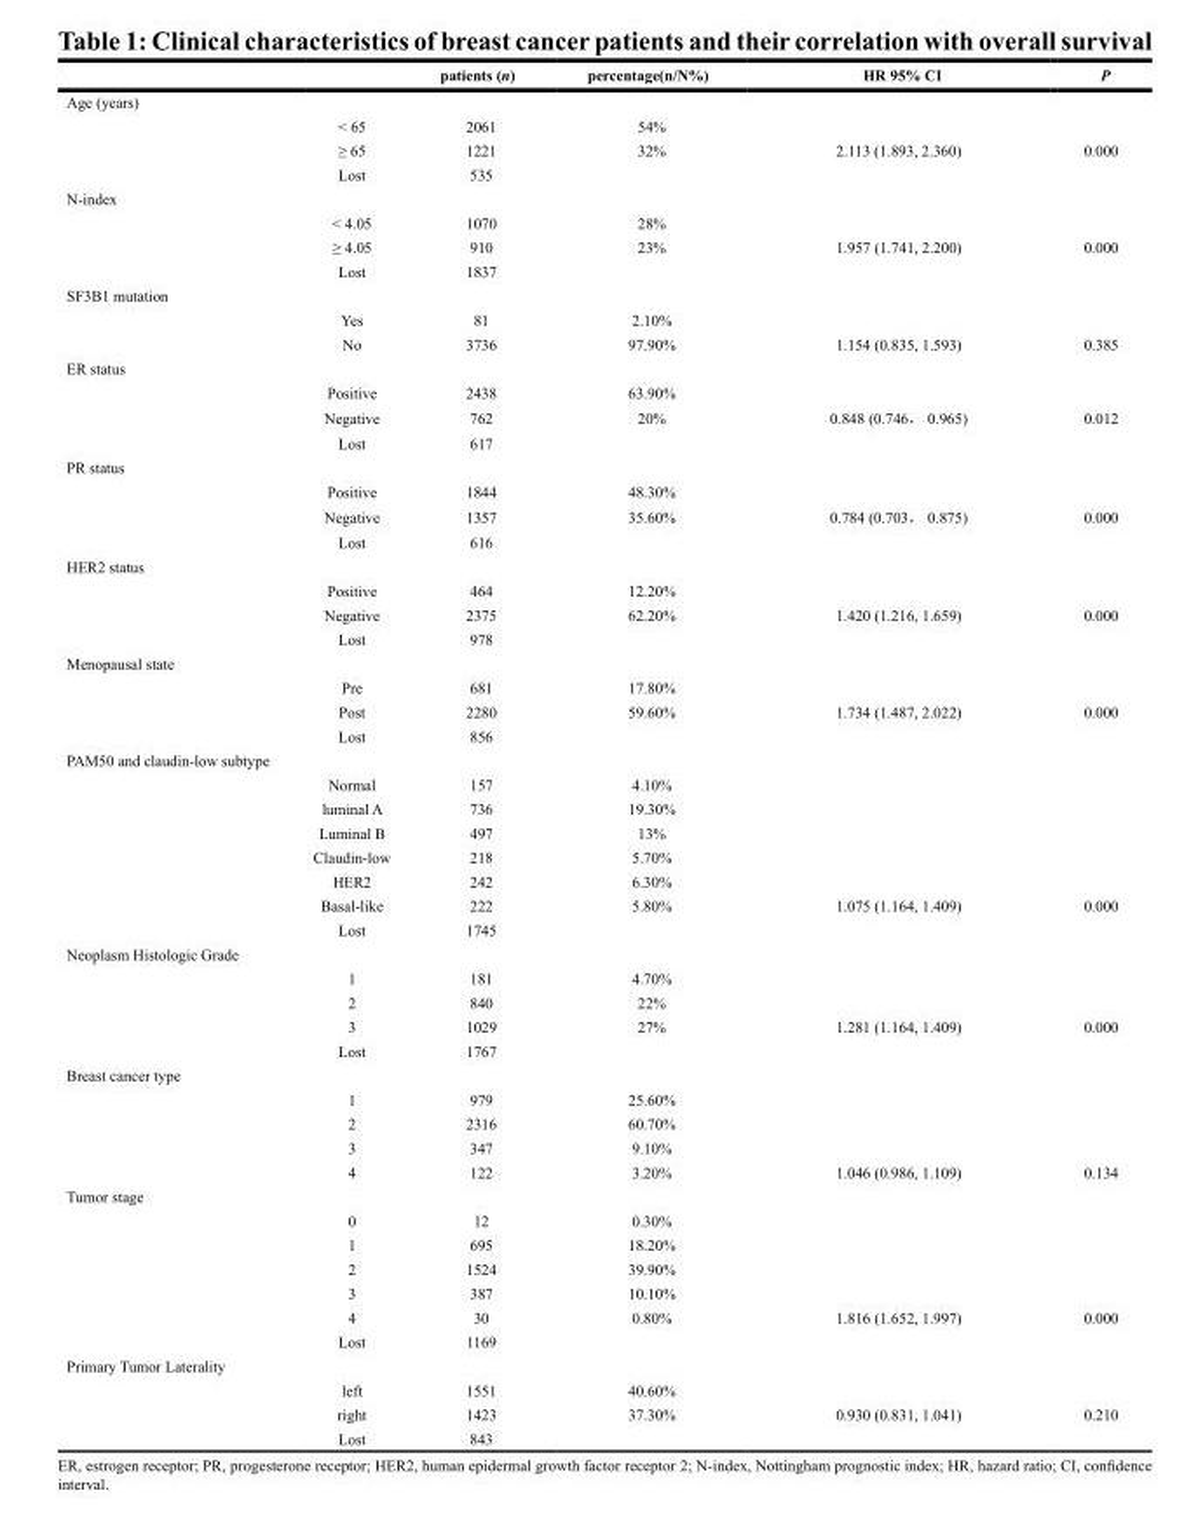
<table><thead><tr><td></td><td></td><td>patients (n)</td><td>percentage(n/N%)</td><td>HR 95% CI</td><td>P</td></tr></thead><tbody><tr><td colspan="6">Age (years)</td></tr><tr><td></td><td>&lt; 65</td><td>2061</td><td>54%</td><td></td><td></td></tr><tr><td></td><td>≥ 65</td><td>1221</td><td>32%</td><td>2.113 (1.893, 2.360)</td><td>0.000</td></tr><tr><td></td><td>Lost</td><td>535</td><td></td><td></td><td></td></tr><tr><td colspan="6">N-index</td></tr><tr><td></td><td>&lt; 4.05</td><td>1070</td><td>28%</td><td></td><td></td></tr><tr><td></td><td>≥ 4.05</td><td>910</td><td>23%</td><td>1.957 (1.741, 2.200)</td><td>0.000</td></tr><tr><td></td><td>Lost</td><td>1837</td><td></td><td></td><td></td></tr><tr><td colspan="6">SF3B1 mutation</td></tr><tr><td></td><td>Yes</td><td>81</td><td>2.10%</td><td></td><td></td></tr><tr><td></td><td>No</td><td>3736</td><td>97.90%</td><td>1.154 (0.835, 1.593)</td><td>0.385</td></tr><tr><td colspan="6">ER status</td></tr><tr><td></td><td>Positive</td><td>2438</td><td>63.90%</td><td></td><td></td></tr><tr><td></td><td>Negative</td><td>762</td><td>20%</td><td>0.848 (0.746， 0.965)</td><td>0.012</td></tr><tr><td></td><td>Lost</td><td>617</td><td></td><td></td><td></td></tr><tr><td colspan="6">PR status</td></tr><tr><td></td><td>Positive</td><td>1844</td><td>48.30%</td><td></td><td></td></tr><tr><td></td><td>Negative</td><td>1357</td><td>35.60%</td><td>0.784 (0.703， 0.875)</td><td>0.000</td></tr><tr><td></td><td>Lost</td><td>616</td><td></td><td></td><td></td></tr><tr><td colspan="6">HER2 status</td></tr><tr><td></td><td>Positive</td><td>464</td><td>12.20%</td><td></td><td></td></tr><tr><td></td><td>Negative</td><td>2375</td><td>62.20%</td><td>1.420 (1.216, 1.659)</td><td>0.000</td></tr><tr><td></td><td>Lost</td><td>978</td><td></td><td></td><td></td></tr><tr><td colspan="6">Menopausal state</td></tr><tr><td></td><td>Pre</td><td>681</td><td>17.80%</td><td></td><td></td></tr><tr><td></td><td>Post</td><td>2280</td><td>59.60%</td><td>1.734 (1.487, 2.022)</td><td>0.000</td></tr><tr><td></td><td>Lost</td><td>856</td><td></td><td></td><td></td></tr><tr><td colspan="6">PAM50 and claudin-low subtype</td></tr><tr><td></td><td>Normal</td><td>157</td><td>4.10%</td><td></td><td></td></tr><tr><td></td><td>luminal A</td><td>736</td><td>19.30%</td><td></td><td></td></tr><tr><td></td><td>Luminal B</td><td>497</td><td>13%</td><td></td><td></td></tr><tr><td></td><td>Claudin-low</td><td>218</td><td>5.70%</td><td></td><td></td></tr><tr><td></td><td>HER2</td><td>242</td><td>6.30%</td><td></td><td></td></tr><tr><td></td><td>Basal-like</td><td>222</td><td>5.80%</td><td>1.075 (1.164, 1.409)</td><td>0.000</td></tr><tr><td></td><td>Lost</td><td>1745</td><td></td><td></td><td></td></tr><tr><td colspan="6">Neoplasm Histologic Grade</td></tr><tr><td></td><td>1</td><td>181</td><td>4.70%</td><td></td><td></td></tr><tr><td></td><td>2</td><td>840</td><td>22%</td><td></td><td></td></tr><tr><td></td><td>3</td><td>1029</td><td>27%</td><td>1.281 (1.164, 1.409)</td><td>0.000</td></tr><tr><td></td><td>Lost</td><td>1767</td><td></td><td></td><td></td></tr><tr><td colspan="6">Breast cancer type</td></tr><tr><td></td><td>1</td><td>979</td><td>25.60%</td><td></td><td></td></tr><tr><td></td><td>2</td><td>2316</td><td>60.70%</td><td></td><td></td></tr><tr><td></td><td>3</td><td>347</td><td>9.10%</td><td></td><td></td></tr><tr><td></td><td>4</td><td>122</td><td>3.20%</td><td>1.046 (0.986, 1.109)</td><td>0.134</td></tr><tr><td colspan="6">Tumor stage</td></tr><tr><td></td><td>0</td><td>12</td><td>0.30%</td><td></td><td></td></tr><tr><td></td><td>1</td><td>695</td><td>18.20%</td><td></td><td></td></tr><tr><td></td><td>2</td><td>1524</td><td>39.90%</td><td></td><td></td></tr><tr><td></td><td>3</td><td>387</td><td>10.10%</td><td></td><td></td></tr><tr><td></td><td>4</td><td>30</td><td>0.80%</td><td>1.816 (1.652, 1.997)</td><td>0.000</td></tr><tr><td></td><td>Lost</td><td>1169</td><td></td><td></td><td></td></tr><tr><td colspan="6">Primary Tumor Laterality</td></tr><tr><td></td><td>left</td><td>1551</td><td>40.60%</td><td></td><td></td></tr><tr><td></td><td>right</td><td>1423</td><td>37.30%</td><td>0.930 (0.831, 1.041)</td><td>0.210</td></tr><tr><td></td><td>Lost</td><td>843</td><td></td><td></td><td></td></tr></tbody></table>